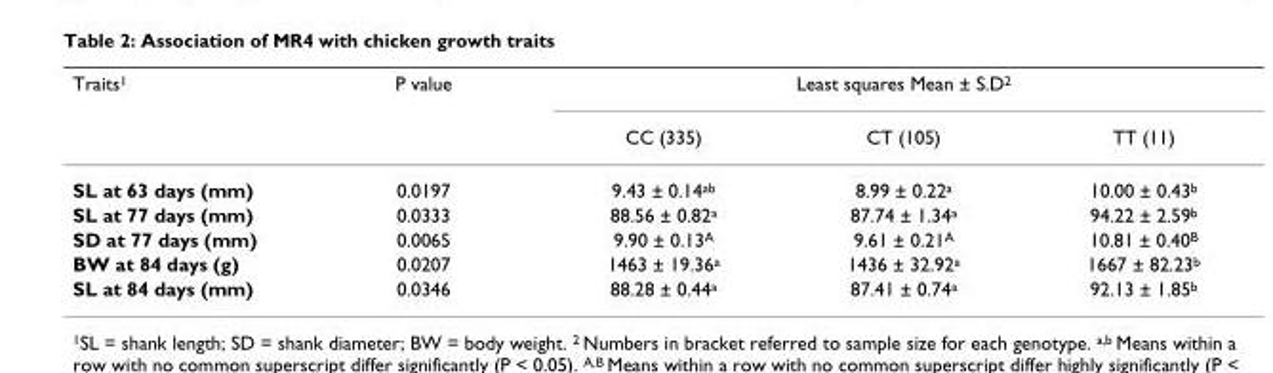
<table><thead><tr><td rowspan="2">Traits<sup>1</sup></td><td rowspan="2">P value</td><td colspan="3">Least squares Mean ± S.D<sup>2</sup></td></tr><tr><td>CC (335)</td><td>CT (105)</td><td>TT (11)</td></tr></thead><tbody><tr><td>SL at 63 days (mm)</td><td>0.0197</td><td>9.43 ± 0.14<sup>ab</sup></td><td>8.99 ± 0.22<sup>a</sup></td><td>10.00 ± 0.43<sup>b</sup></td></tr><tr><td>SL at 77 days (mm)</td><td>0.0333</td><td>88.56 ± 0.82<sup>a</sup></td><td>87.74 ± 1.34<sup>a</sup></td><td>94.22 ± 2.59<sup>b</sup></td></tr><tr><td>SD at 77 days (mm)</td><td>0.0065</td><td>9.90 ± 0.13<sup>A</sup></td><td>9.61 ± 0.21<sup>A</sup></td><td>10.81 ± 0.40<sup>B</sup></td></tr><tr><td>BW at 84 days (g)</td><td>0.0207</td><td>1463 ± 19.36<sup>a</sup></td><td>1436 ± 32.92<sup>a</sup></td><td>1667 ± 82.23<sup>b</sup></td></tr><tr><td>SL at 84 days (mm)</td><td>0.0346</td><td>88.28 ± 0.44<sup>a</sup></td><td>87.41 ± 0.74<sup>a</sup></td><td>92.13 ± 1.85<sup>b</sup></td></tr></tbody></table>